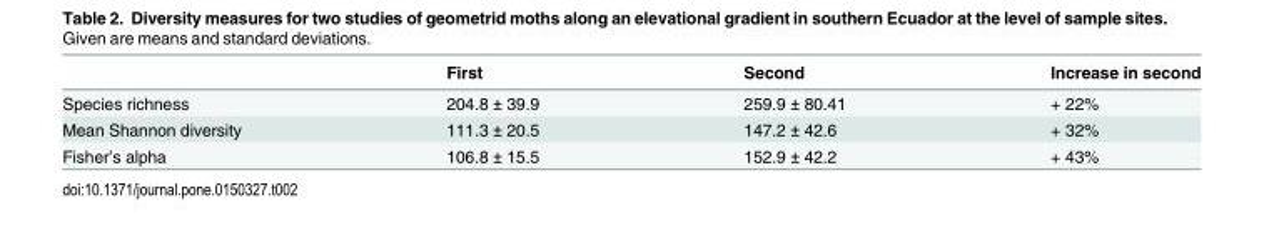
<table><thead><tr><td></td><td>First</td><td>Second</td><td>Increase in second</td></tr></thead><tbody><tr><td>Species richness</td><td>204.8 ± 39.9</td><td>259.9 ± 80.41</td><td>+ 22%</td></tr><tr><td>Mean Shannon diversity</td><td>111.3 ± 20.5</td><td>147.2 ± 42.6</td><td>+ 32%</td></tr><tr><td>Fisher’s alpha</td><td>106.8 ± 15.5</td><td>152.9 ± 42.2</td><td>+ 43%</td></tr></tbody></table>